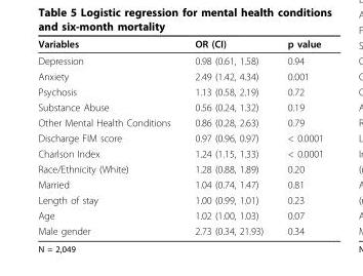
<table><thead><tr><td>Variables</td><td>OR (CI)</td><td>p value</td></tr></thead><tbody><tr><td>Depression</td><td>0.98 (0.61, 1.58)</td><td>0.94</td></tr><tr><td>Anxiety</td><td>2.49 (1.42, 4.34)</td><td>0.001</td></tr><tr><td>Psychosis</td><td>1.13 (0.58, 2.19)</td><td>0.72</td></tr><tr><td>Substance Abuse</td><td>0.56 (0.24, 1.32)</td><td>0.19</td></tr><tr><td>Other Mental Health Conditions</td><td>0.86 (0.28, 2.63)</td><td>0.79</td></tr><tr><td>Discharge FIM score</td><td>0.97 (0.96, 0.97)</td><td>&lt; 0.0001</td></tr><tr><td>Charlson Index</td><td>1.24 (1.15, 1.33)</td><td>&lt; 0.0001</td></tr><tr><td>Race/Ethnicity (White)</td><td>1.28 (0.88, 1.89)</td><td>0.20</td></tr><tr><td>Married</td><td>1.04 (0.74, 1.47)</td><td>0.81</td></tr><tr><td>Length of stay</td><td>1.00 (0.99, 1.01)</td><td>0.23</td></tr><tr><td>Age</td><td>1.02 (1.00, 1.03)</td><td>0.07</td></tr><tr><td>Male gender</td><td>2.73 (0.34, 21.93)</td><td>0.34</td></tr></tbody></table>